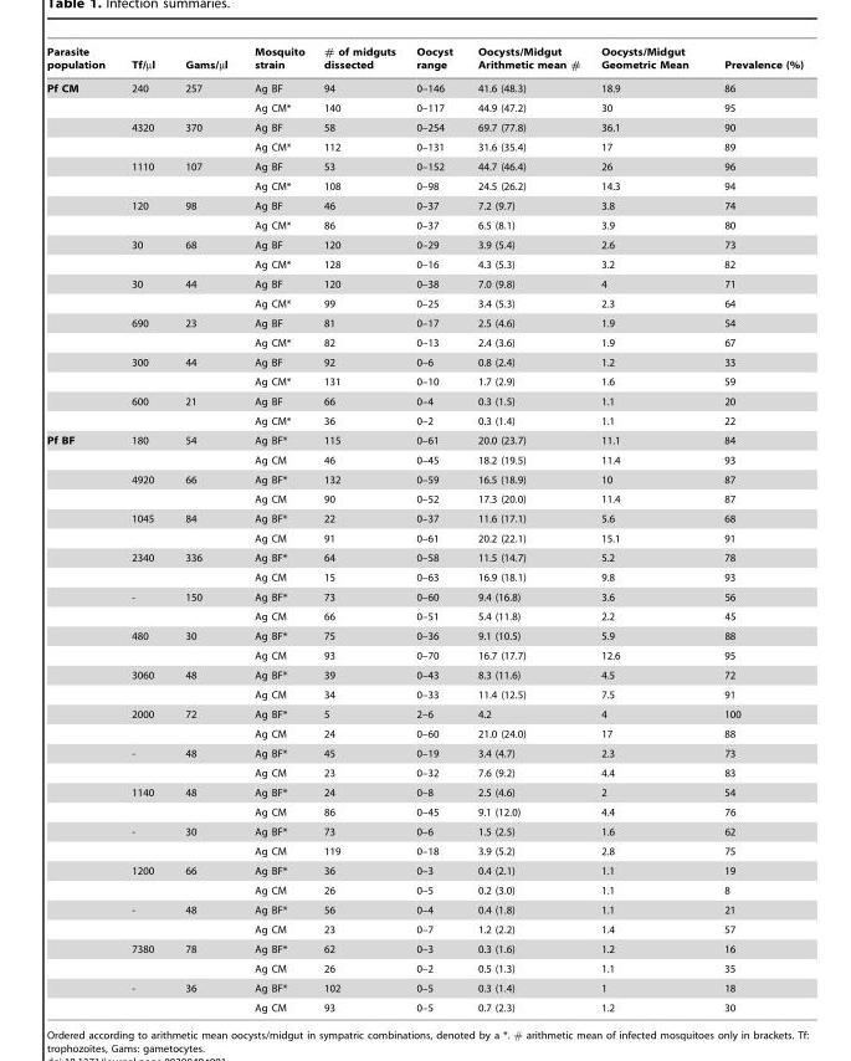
<table><thead><tr><td>Parasite population</td><td>Tf/µl</td><td>Gams/µl</td><td>Mosquito strain</td><td># of midguts dissected</td><td>Oocyst range</td><td>Oocysts/Midgut Arithmetic mean #</td><td>Oocysts/Midgut Geometric Mean</td><td>Prevalence (%)</td></tr></thead><tbody><tr><td rowspan="18">Pf CM</td><td>240</td><td>257</td><td>Ag BF</td><td>94</td><td>0–146</td><td>41.6 (48.3)</td><td>18.9</td><td>86</td></tr><tr><td></td><td></td><td>Ag CM*</td><td>140</td><td>0–117</td><td>44.9 (47.2)</td><td>30</td><td>95</td></tr><tr><td>4320</td><td>370</td><td>Ag BF</td><td>58</td><td>0–254</td><td>69.7 (77.8)</td><td>36.1</td><td>90</td></tr><tr><td></td><td></td><td>Ag CM*</td><td>112</td><td>0–131</td><td>31.6 (35.4)</td><td>17</td><td>89</td></tr><tr><td>1110</td><td>107</td><td>Ag BF</td><td>53</td><td>0–152</td><td>44.7 (46.4)</td><td>26</td><td>96</td></tr><tr><td></td><td></td><td>Ag CM*</td><td>108</td><td>0–98</td><td>24.5 (26.2)</td><td>14.3</td><td>94</td></tr><tr><td>120</td><td>98</td><td>Ag BF</td><td>46</td><td>0–37</td><td>7.2 (9.7)</td><td>3.8</td><td>74</td></tr><tr><td></td><td></td><td>Ag CM*</td><td>86</td><td>0–37</td><td>6.5 (8.1)</td><td>3.9</td><td>80</td></tr><tr><td>30</td><td>68</td><td>Ag BF</td><td>120</td><td>0–29</td><td>3.9 (5.4)</td><td>2.6</td><td>73</td></tr><tr><td></td><td></td><td>Ag CM*</td><td>128</td><td>0–16</td><td>4.3 (5.3)</td><td>3.2</td><td>82</td></tr><tr><td>30</td><td>44</td><td>Ag BF</td><td>120</td><td>0–38</td><td>7.0 (9.8)</td><td>4</td><td>71</td></tr><tr><td></td><td></td><td>Ag CM*</td><td>99</td><td>0–25</td><td>3.4 (5.3)</td><td>2.3</td><td>64</td></tr><tr><td>690</td><td>23</td><td>Ag BF</td><td>81</td><td>0–17</td><td>2.5 (4.6)</td><td>1.9</td><td>54</td></tr><tr><td></td><td></td><td>Ag CM*</td><td>82</td><td>0–13</td><td>2.4 (3.6)</td><td>1.9</td><td>67</td></tr><tr><td>300</td><td>44</td><td>Ag BF</td><td>92</td><td>0–6</td><td>0.8 (2.4)</td><td>1.2</td><td>33</td></tr><tr><td></td><td></td><td>Ag CM*</td><td>131</td><td>0–10</td><td>1.7 (2.9)</td><td>1.6</td><td>59</td></tr><tr><td>600</td><td>21</td><td>Ag BF</td><td>66</td><td>0–4</td><td>0.3 (1.5)</td><td>1.1</td><td>20</td></tr><tr><td></td><td></td><td>Ag CM*</td><td>36</td><td>0–2</td><td>0.3 (1.4)</td><td>1.1</td><td>22</td></tr><tr><td rowspan="30">Pf BF</td><td>180</td><td>54</td><td>Ag BF*</td><td>115</td><td>0–61</td><td>20.0 (23.7)</td><td>11.1</td><td>84</td></tr><tr><td></td><td></td><td>Ag CM</td><td>46</td><td>0–45</td><td>18.2 (19.5)</td><td>11.4</td><td>93</td></tr><tr><td>4920</td><td>66</td><td>Ag BF*</td><td>132</td><td>0–59</td><td>16.5 (18.9)</td><td>10</td><td>87</td></tr><tr><td></td><td></td><td>Ag CM</td><td>90</td><td>0–52</td><td>17.3 (20.0)</td><td>11.4</td><td>87</td></tr><tr><td>1045</td><td>84</td><td>Ag BF*</td><td>22</td><td>0–37</td><td>11.6 (17.1)</td><td>5.6</td><td>68</td></tr><tr><td></td><td></td><td>Ag CM</td><td>91</td><td>0–61</td><td>20.2 (22.1)</td><td>15.1</td><td>91</td></tr><tr><td>2340</td><td>336</td><td>Ag BF*</td><td>64</td><td>0–58</td><td>11.5 (14.7)</td><td>5.2</td><td>78</td></tr><tr><td></td><td></td><td>Ag CM</td><td>15</td><td>0–63</td><td>16.9 (18.1)</td><td>9.8</td><td>93</td></tr><tr><td>-</td><td>150</td><td>Ag BF*</td><td>73</td><td>0–60</td><td>9.4 (16.8)</td><td>3.6</td><td>56</td></tr><tr><td></td><td></td><td>Ag CM</td><td>66</td><td>0–51</td><td>5.4 (11.8)</td><td>2.2</td><td>45</td></tr><tr><td>480</td><td>30</td><td>Ag BF*</td><td>75</td><td>0–36</td><td>9.1 (10.5)</td><td>5.9</td><td>88</td></tr><tr><td></td><td></td><td>Ag CM</td><td>93</td><td>0–70</td><td>16.7 (17.7)</td><td>12.6</td><td>95</td></tr><tr><td>3060</td><td>48</td><td>Ag BF*</td><td>39</td><td>0–43</td><td>8.3 (11.6)</td><td>4.5</td><td>72</td></tr><tr><td></td><td></td><td>Ag CM</td><td>34</td><td>0–33</td><td>11.4 (12.5)</td><td>7.5</td><td>91</td></tr><tr><td>2000</td><td>72</td><td>Ag BF*</td><td>5</td><td>2–6</td><td>4.2</td><td>4</td><td>100</td></tr><tr><td></td><td></td><td>Ag CM</td><td>24</td><td>0–60</td><td>21.0 (24.0)</td><td>17</td><td>88</td></tr><tr><td>-</td><td>48</td><td>Ag BF*</td><td>45</td><td>0–19</td><td>3.4 (4.7)</td><td>2.3</td><td>73</td></tr><tr><td></td><td></td><td>Ag CM</td><td>23</td><td>0–32</td><td>7.6 (9.2)</td><td>4.4</td><td>83</td></tr><tr><td>1140</td><td>48</td><td>Ag BF*</td><td>24</td><td>0–8</td><td>2.5 (4.6)</td><td>2</td><td>54</td></tr><tr><td></td><td></td><td>Ag CM</td><td>86</td><td>0–45</td><td>9.1 (12.0)</td><td>4.4</td><td>76</td></tr><tr><td>-</td><td>30</td><td>Ag BF*</td><td>73</td><td>0–6</td><td>1.5 (2.5)</td><td>1.6</td><td>62</td></tr><tr><td></td><td></td><td>Ag CM</td><td>119</td><td>0–18</td><td>3.9 (5.2)</td><td>2.8</td><td>75</td></tr><tr><td>1200</td><td>66</td><td>Ag BF*</td><td>36</td><td>0–3</td><td>0.4 (2.1)</td><td>1.1</td><td>19</td></tr><tr><td></td><td></td><td>Ag CM</td><td>26</td><td>0–5</td><td>0.2 (3.0)</td><td>1.1</td><td>8</td></tr><tr><td>-</td><td>48</td><td>Ag BF*</td><td>56</td><td>0–4</td><td>0.4 (1.8)</td><td>1.1</td><td>21</td></tr><tr><td></td><td></td><td>Ag CM</td><td>23</td><td>0–7</td><td>1.2 (2.2)</td><td>1.4</td><td>57</td></tr><tr><td>7380</td><td>78</td><td>Ag BF*</td><td>62</td><td>0–3</td><td>0.3 (1.6)</td><td>1.2</td><td>16</td></tr><tr><td></td><td></td><td>Ag CM</td><td>26</td><td>0–2</td><td>0.5 (1.3)</td><td>1.1</td><td>35</td></tr><tr><td>-</td><td>36</td><td>Ag BF*</td><td>102</td><td>0–5</td><td>0.3 (1.4)</td><td>1</td><td>18</td></tr><tr><td></td><td></td><td>Ag CM</td><td>93</td><td>0–5</td><td>0.7 (2.3)</td><td>1.2</td><td>30</td></tr></tbody></table>